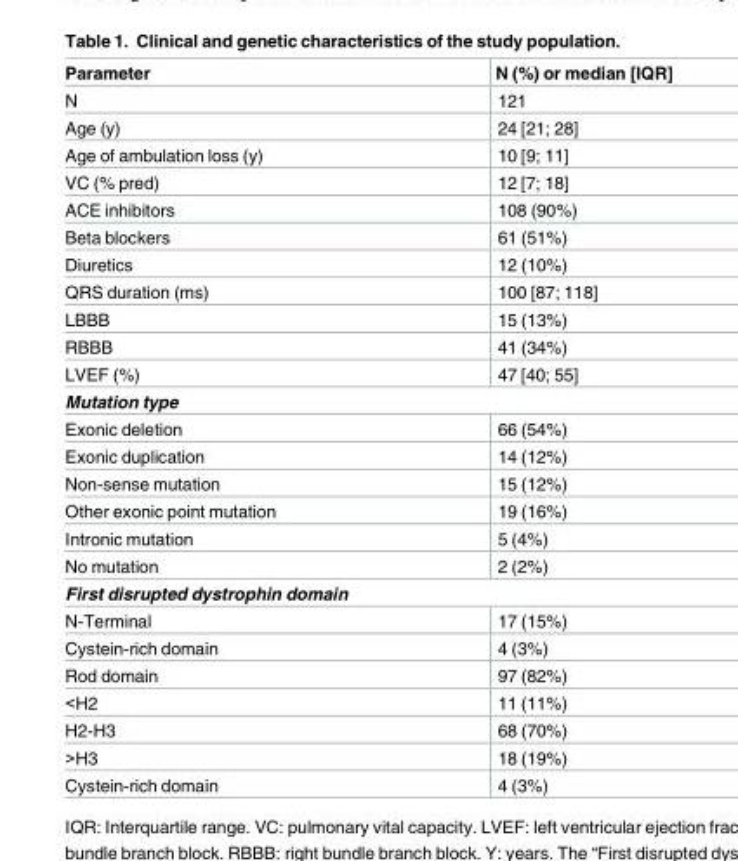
<table><thead><tr><td>Parameter</td><td>N (%) or median [IQR]</td></tr></thead><tbody><tr><td>N</td><td>121</td></tr><tr><td>Age (y)</td><td>24 [21; 28]</td></tr><tr><td>Age of ambulation loss (y)</td><td>10 [9; 11]</td></tr><tr><td>VC (% pred)</td><td>12 [7; 18]</td></tr><tr><td>ACE inhibitors</td><td>108 (90%)</td></tr><tr><td>Beta blockers</td><td>61 (51%)</td></tr><tr><td>Diuretics</td><td>12 (10%)</td></tr><tr><td>QRS duration (ms)</td><td>100 [87; 118]</td></tr><tr><td>LBBB</td><td>15 (13%)</td></tr><tr><td>RBBB</td><td>41 (34%)</td></tr><tr><td>LVEF (%)</td><td>47 [40; 55]</td></tr><tr><td colspan="2">Mutation type</td></tr><tr><td>Exonic deletion</td><td>66 (54%)</td></tr><tr><td>Exonic duplication</td><td>14 (12%)</td></tr><tr><td>Non-sense mutation</td><td>15 (12%)</td></tr><tr><td>Other exonic point mutation</td><td>19 (16%)</td></tr><tr><td>Intronic mutation</td><td>5 (4%)</td></tr><tr><td>No mutation</td><td>2 (2%)</td></tr><tr><td colspan="2">First disrupted dystrophin domain</td></tr><tr><td>N-Terminal</td><td>17 (15%)</td></tr><tr><td>Cystein-rich domain</td><td>4 (3%)</td></tr><tr><td>Rod domain</td><td>97 (82%)</td></tr><tr><td>&lt;H2</td><td>11 (11%)</td></tr><tr><td>H2-H3</td><td>68 (70%)</td></tr><tr><td>&gt;H3</td><td>18 (19%)</td></tr><tr><td>Cystein-rich domain</td><td>4 (3%)</td></tr></tbody></table>